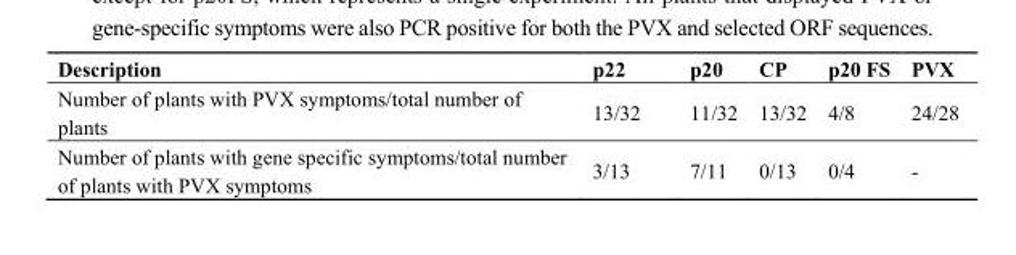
<table><thead><tr><td>Description</td><td>p22</td><td>p20</td><td>CP</td><td>p20 FS</td><td>PVX</td></tr></thead><tbody><tr><td>Number of plants with PVX symptoms/total number of plants</td><td>13/32</td><td>11/32</td><td>13/32</td><td>4/8</td><td>24/28</td></tr><tr><td>Number of plants with gene specific symptoms/total number of plants with PVX symptoms</td><td>3/13</td><td>7/11</td><td>0/13</td><td>0/4</td><td>-</td></tr></tbody></table>